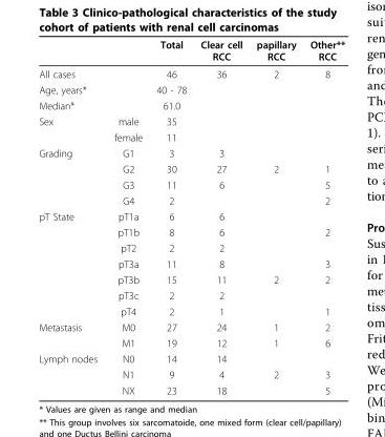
<table><thead><tr><td></td><td></td><td>Total</td><td>Clear cell RCC</td><td>papillary RCC</td><td>Other** RCC</td></tr></thead><tbody><tr><td>All cases</td><td></td><td>46</td><td>36</td><td>2</td><td>8</td></tr><tr><td>Age, years*</td><td></td><td>40 - 78</td><td></td><td></td><td></td></tr><tr><td>Median*</td><td></td><td>61.0</td><td></td><td></td><td></td></tr><tr><td rowspan="2">Sex</td><td>male</td><td>35</td><td></td><td></td><td></td></tr><tr><td>female</td><td>11</td><td></td><td></td><td></td></tr><tr><td rowspan="4">Grading</td><td>G1</td><td>3</td><td>3</td><td></td><td></td></tr><tr><td>G2</td><td>30</td><td>27</td><td>2</td><td>1</td></tr><tr><td>G3</td><td>11</td><td>6</td><td></td><td>5</td></tr><tr><td>G4</td><td>2</td><td></td><td></td><td>2</td></tr><tr><td rowspan="7">pT State</td><td>pT1a</td><td>6</td><td>6</td><td></td><td></td></tr><tr><td>pT1b</td><td>8</td><td>6</td><td></td><td>2</td></tr><tr><td>pT2</td><td>2</td><td>2</td><td></td><td></td></tr><tr><td>pT3a</td><td>11</td><td>8</td><td></td><td>3</td></tr><tr><td>pT3b</td><td>15</td><td>11</td><td>2</td><td>2</td></tr><tr><td>pT3c</td><td>2</td><td>2</td><td></td><td></td></tr><tr><td>pT4</td><td>2</td><td>1</td><td></td><td>1</td></tr><tr><td rowspan="2">Metastasis</td><td>M0</td><td>27</td><td>24</td><td>1</td><td>2</td></tr><tr><td>M1</td><td>19</td><td>12</td><td>1</td><td>6</td></tr><tr><td rowspan="3">Lymph nodes</td><td>N0</td><td>14</td><td>14</td><td></td><td></td></tr><tr><td>N1</td><td>9</td><td>4</td><td>2</td><td>3</td></tr><tr><td>NX</td><td>23</td><td>18</td><td></td><td>5</td></tr></tbody></table>